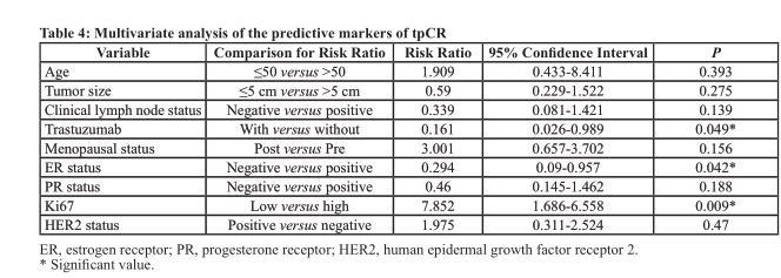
<table><thead><tr><td>Variable</td><td>Comparison for Risk Ratio</td><td>Risk Ratio</td><td>95% Confidence Interval</td><td>P</td></tr></thead><tbody><tr><td>Age</td><td>≤50 versus &gt;50</td><td>1.909</td><td>0.433-8.411</td><td>0.393</td></tr><tr><td>Tumor size</td><td>≤5 cm versus &gt;5 cm</td><td>0.59</td><td>0.229-1.522</td><td>0.275</td></tr><tr><td>Clinical lymph node status</td><td>Negative versus positive</td><td>0.339</td><td>0.081-1.421</td><td>0.139</td></tr><tr><td>Trastuzumab</td><td>With versus without</td><td>0.161</td><td>0.026-0.989</td><td>0.049*</td></tr><tr><td>Menopausal status</td><td>Post versus Pre</td><td>3.001</td><td>0.657-3.702</td><td>0.156</td></tr><tr><td>ER status</td><td>Negative versus positive</td><td>0.294</td><td>0.09-0.957</td><td>0.042*</td></tr><tr><td>PR status</td><td>Negative versus positive</td><td>0.46</td><td>0.145-1.462</td><td>0.188</td></tr><tr><td>Ki67</td><td>Low versus high</td><td>7.852</td><td>1.686-6.558</td><td>0.009*</td></tr><tr><td>HER2 status</td><td>Positive versus negative</td><td>1.975</td><td>0.311-2.524</td><td>0.47</td></tr></tbody></table>